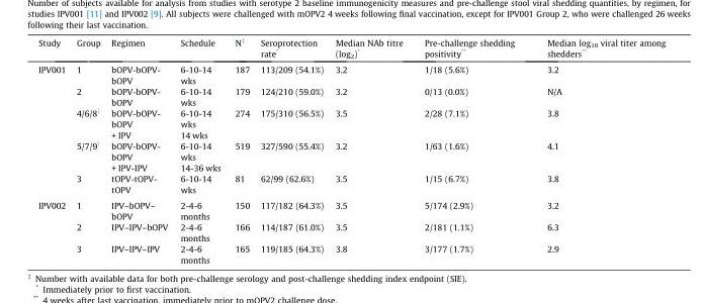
<table><thead><tr><td>Study</td><td>Group</td><td>Regimen</td><td>Schedule</td><td>N‡</td><td>Seroprotection rate*</td><td>Median NAb titre (log<sub>2</sub>)*</td><td>Pre-challenge shedding positivity**</td><td>Median log<sub>10</sub> viral titer among shedders**</td></tr></thead><tbody><tr><td rowspan="5">IPV001</td><td>1</td><td>bOPV-bOPV- bOPV</td><td>6-10-14 wks</td><td>187</td><td>113/209 (54.1%)</td><td>3.2</td><td>1/18 (5.6%)</td><td>3.2</td></tr><tr><td>2</td><td>bOPV-bOPV- bOPV</td><td>6-10-14 wks</td><td>179</td><td>124/210 (59.0%)</td><td>3.2</td><td>0/13 (0.0%)</td><td>N/A</td></tr><tr><td>4/6/8†</td><td>bOPV-bOPV- bOPV + IPV</td><td>6-10-14 wks 14 wks</td><td>274</td><td>175/310 (56.5%)</td><td>3.5</td><td>2/28 (7.1%)</td><td>3.8</td></tr><tr><td>5/7/9†</td><td>bOPV-bOPV- bOPV + IPV-IPV</td><td>6-10-14 wks 14-36 wks</td><td>519</td><td>327/590 (55.4%)</td><td>3.2</td><td>1/63 (1.6%)</td><td>4.1</td></tr><tr><td>3</td><td>tOPV-tOPV- tOPV</td><td>6-10-14 wks</td><td>81</td><td>62/99 (62.6%)</td><td>3.5</td><td>1/15 (6.7%)</td><td>3.8</td></tr><tr><td rowspan="3">IPV002</td><td>1</td><td>IPV–bOPV– bOPV</td><td>2-4-6 months</td><td>150</td><td>117/182 (64.3%)</td><td>3.5</td><td>5/174 (2.9%)</td><td>3.2</td></tr><tr><td>2</td><td>IPV–IPV–bOPV</td><td>2-4-6 months</td><td>166</td><td>114/187 (61.0%)</td><td>3.5</td><td>2/181 (1.1%)</td><td>6.3</td></tr><tr><td>3</td><td>IPV–IPV–IPV</td><td>2-4-6 months</td><td>165</td><td>119/185 (64.3%)</td><td>3.8</td><td>3/177 (1.7%)</td><td>2.9</td></tr></tbody></table>